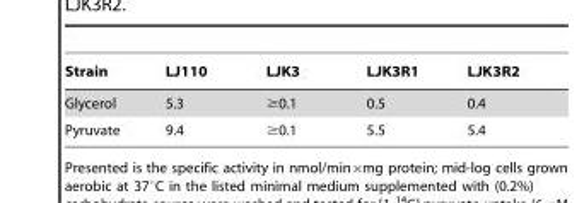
<table><thead><tr><td>Strain</td><td>LJ110</td><td>LJK3</td><td>LJK3R1</td><td>LJK3R2</td></tr></thead><tbody><tr><td>Glycerol</td><td>5.3</td><td>≥0.1</td><td>0.5</td><td>0.4</td></tr><tr><td>Pyruvate</td><td>9.4</td><td>≥0.1</td><td>5.5</td><td>5.4</td></tr></tbody></table>